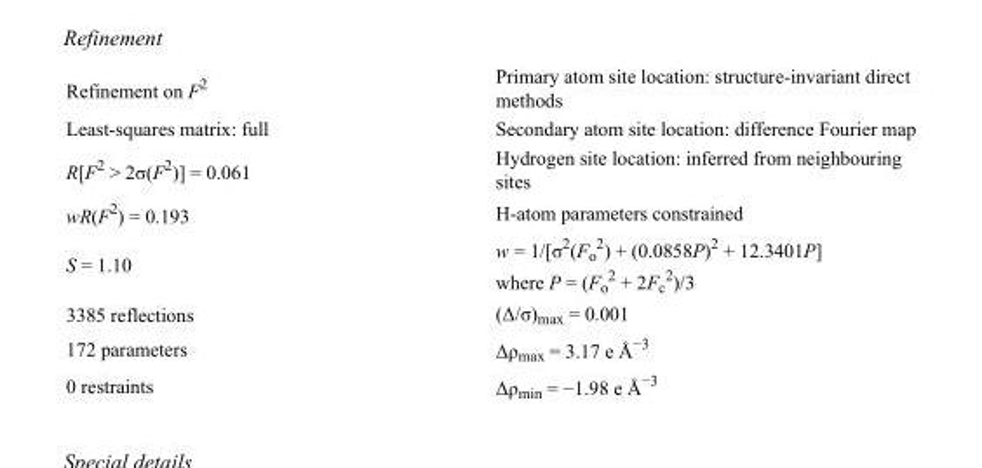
<table><tbody><tr><td>Refinement on F<sup>2</sup></td><td>Primary atom site location: structure-invariant direct methods</td></tr><tr><td>Least-squares matrix: full</td><td>Secondary atom site location: difference Fourier map</td></tr><tr><td>R[F<sup>2</sup> &gt; 2σ(F<sup>2</sup>)] = 0.061</td><td>Hydrogen site location: inferred from neighbouring sites</td></tr><tr><td>wR(F<sup>2</sup>) = 0.193</td><td>H-atom parameters constrained</td></tr><tr><td>S = 1.10</td><td>w = 1/[σ<sup>2</sup>(F<sub>o</sub> <sup>2</sup>) + (0.0858P)<sup>2</sup> + 12.3401P] where P = (F<sub>o</sub> <sup>2</sup> + 2F<sub>c</sub> <sup>2</sup>)/3</td></tr><tr><td>3385 reflections</td><td>(Δ/σ)<sub>max</sub> = 0.001</td></tr><tr><td>172 parameters</td><td>Δρ<sub>max</sub> = 3.17 e Å<sup>−3</sup></td></tr><tr><td>0 restraints</td><td>Δρ<sub>min</sub> = −1.98 e Å<sup>−3</sup></td></tr></tbody></table>